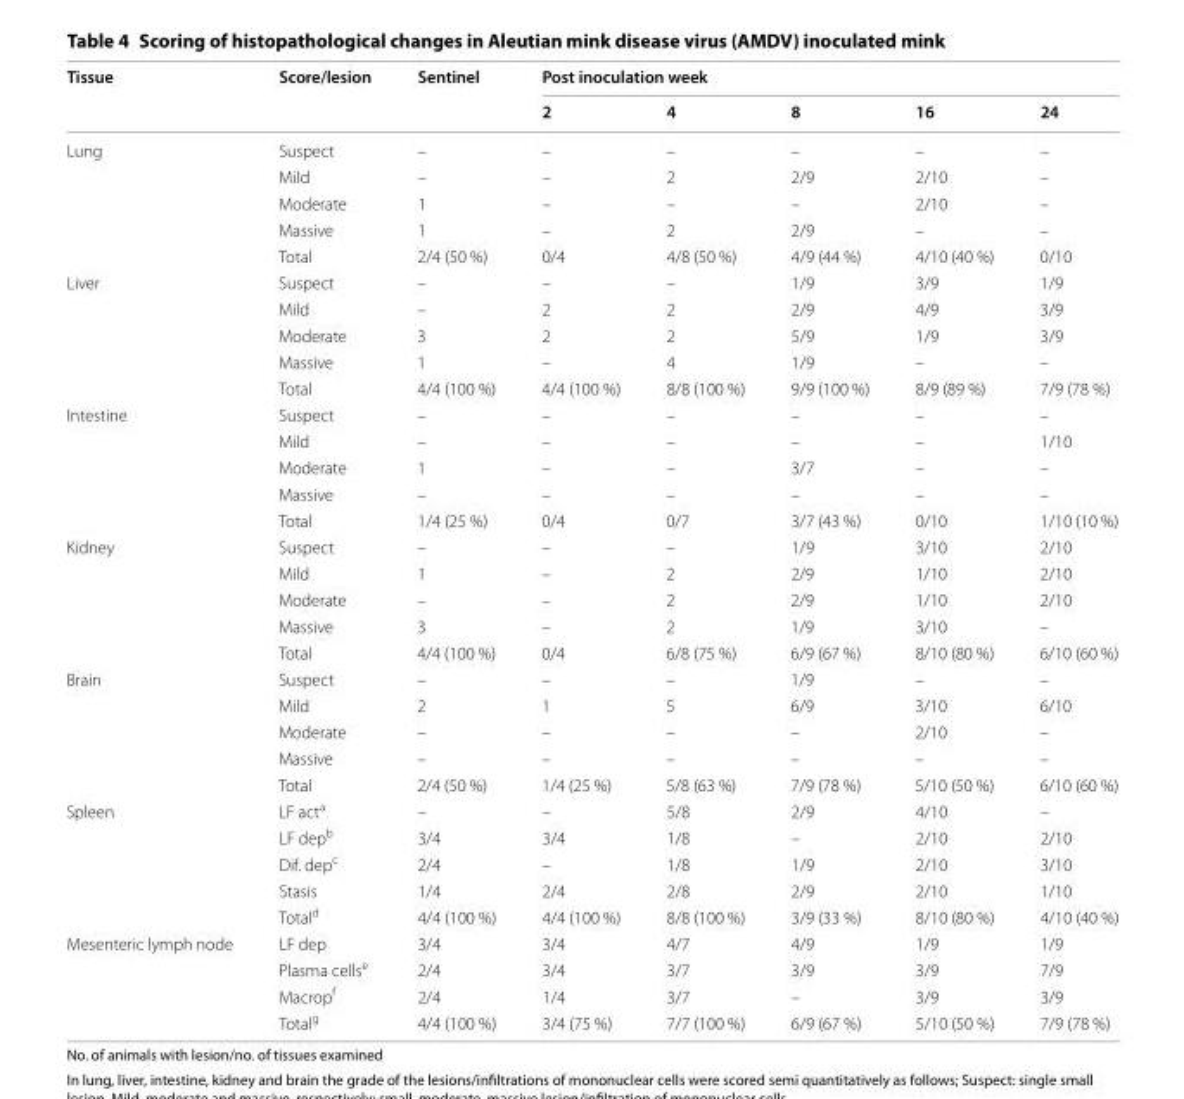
<table><thead><tr><td rowspan="2">Tissue</td><td rowspan="2">Score/lesion</td><td rowspan="2">Sentinel</td><td colspan="5">Post inoculation week</td></tr><tr><td>2</td><td>4</td><td>8</td><td>16</td><td>24</td></tr></thead><tbody><tr><td rowspan="5">Lung</td><td>Suspect</td><td>–</td><td>–</td><td>–</td><td>–</td><td>–</td><td>–</td></tr><tr><td>Mild</td><td>–</td><td>–</td><td>2</td><td>2/9</td><td>2/10</td><td>–</td></tr><tr><td>Moderate</td><td>1</td><td>–</td><td>–</td><td>–</td><td>2/10</td><td>–</td></tr><tr><td>Massive</td><td>1</td><td>–</td><td>2</td><td>2/9</td><td>–</td><td>–</td></tr><tr><td>Total</td><td>2/4 (50 %)</td><td>0/4</td><td>4/8 (50 %)</td><td>4/9 (44 %)</td><td>4/10 (40 %)</td><td>0/10</td></tr><tr><td rowspan="5">Liver</td><td>Suspect</td><td>–</td><td>–</td><td>–</td><td>1/9</td><td>3/9</td><td>1/9</td></tr><tr><td>Mild</td><td>–</td><td>2</td><td>2</td><td>2/9</td><td>4/9</td><td>3/9</td></tr><tr><td>Moderate</td><td>3</td><td>2</td><td>2</td><td>5/9</td><td>1/9</td><td>3/9</td></tr><tr><td>Massive</td><td>1</td><td>–</td><td>4</td><td>1/9</td><td>–</td><td>–</td></tr><tr><td>Total</td><td>4/4 (100 %)</td><td>4/4 (100 %)</td><td>8/8 (100 %)</td><td>9/9 (100 %)</td><td>8/9 (89 %)</td><td>7/9 (78 %)</td></tr><tr><td rowspan="5">Intestine</td><td>Suspect</td><td>–</td><td>–</td><td>–</td><td>–</td><td>–</td><td>–</td></tr><tr><td>Mild</td><td>–</td><td>–</td><td>–</td><td>–</td><td>–</td><td>1/10</td></tr><tr><td>Moderate</td><td>1</td><td>–</td><td>–</td><td>3/7</td><td>–</td><td>–</td></tr><tr><td>Massive</td><td>–</td><td>–</td><td>–</td><td>–</td><td>–</td><td>–</td></tr><tr><td>Total</td><td>1/4 (25 %)</td><td>0/4</td><td>0/7</td><td>3/7 (43 %)</td><td>0/10</td><td>1/10 (10 %)</td></tr><tr><td rowspan="5">Kidney</td><td>Suspect</td><td>–</td><td>–</td><td>–</td><td>1/9</td><td>3/10</td><td>2/10</td></tr><tr><td>Mild</td><td>1</td><td>–</td><td>2</td><td>2/9</td><td>1/10</td><td>2/10</td></tr><tr><td>Moderate</td><td>–</td><td>–</td><td>2</td><td>2/9</td><td>1/10</td><td>2/10</td></tr><tr><td>Massive</td><td>3</td><td>–</td><td>2</td><td>1/9</td><td>3/10</td><td>–</td></tr><tr><td>Total</td><td>4/4 (100 %)</td><td>0/4</td><td>6/8 (75 %)</td><td>6/9 (67 %)</td><td>8/10 (80 %)</td><td>6/10 (60 %)</td></tr><tr><td rowspan="5">Brain</td><td>Suspect</td><td>–</td><td>–</td><td>–</td><td>1/9</td><td>–</td><td>–</td></tr><tr><td>Mild</td><td>2</td><td>1</td><td>5</td><td>6/9</td><td>3/10</td><td>6/10</td></tr><tr><td>Moderate</td><td>–</td><td>–</td><td>–</td><td>–</td><td>2/10</td><td>–</td></tr><tr><td>Massive</td><td>–</td><td>–</td><td>–</td><td>–</td><td>–</td><td>–</td></tr><tr><td>Total</td><td>2/4 (50 %)</td><td>1/4 (25 %)</td><td>5/8 (63 %)</td><td>7/9 (78 %)</td><td>5/10 (50 %)</td><td>6/10 (60 %)</td></tr><tr><td rowspan="5">Spleen</td><td>LF act<sup>a</sup></td><td>–</td><td>–</td><td>5/8</td><td>2/9</td><td>4/10</td><td>–</td></tr><tr><td>LF dep<sup>b</sup></td><td>3/4</td><td>3/4</td><td>1/8</td><td>–</td><td>2/10</td><td>2/10</td></tr><tr><td>Dif. dep<sup>c</sup></td><td>2/4</td><td>–</td><td>1/8</td><td>1/9</td><td>2/10</td><td>3/10</td></tr><tr><td>Stasis</td><td>1/4</td><td>2/4</td><td>2/8</td><td>2/9</td><td>2/10</td><td>1/10</td></tr><tr><td>Total<sup>d</sup></td><td>4/4 (100 %)</td><td>4/4 (100 %)</td><td>8/8 (100 %)</td><td>3/9 (33 %)</td><td>8/10 (80 %)</td><td>4/10 (40 %)</td></tr><tr><td rowspan="4">Mesenteric lymph node</td><td>LF dep</td><td>3/4</td><td>3/4</td><td>4/7</td><td>4/9</td><td>1/9</td><td>1/9</td></tr><tr><td>Plasma cells<sup>e</sup></td><td>2/4</td><td>3/4</td><td>3/7</td><td>3/9</td><td>3/9</td><td>7/9</td></tr><tr><td>Macrop<sup>f</sup></td><td>2/4</td><td>1/4</td><td>3/7</td><td>–</td><td>3/9</td><td>3/9</td></tr><tr><td>Total<sup>g</sup></td><td>4/4 (100 %)</td><td>3/4 (75 %)</td><td>7/7 (100 %)</td><td>6/9 (67 %)</td><td>5/10 (50 %)</td><td>7/9 (78 %)</td></tr></tbody></table>